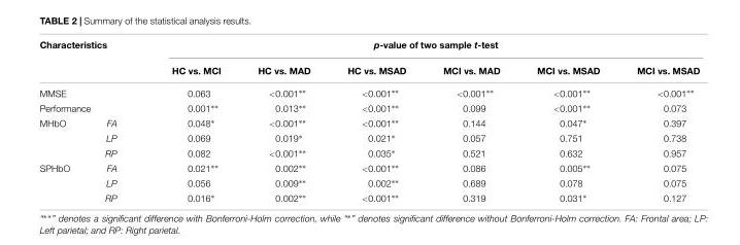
<table><thead><tr><td colspan="2">Characteristics</td><td colspan="6">p-value of two sample t-test</td></tr><tr><td></td><td></td><td>HC vs. MCI</td><td>HC vs. MAD</td><td>HC vs. MSAD</td><td>MCI vs. MAD</td><td>MCI vs. MSAD</td><td>MCI vs. MSAD</td></tr></thead><tbody><tr><td>MMSE</td><td></td><td>0.063</td><td>&lt;0.001∗∗</td><td>&lt;0.001∗∗</td><td>&lt;0.001∗∗</td><td>&lt;0.001∗∗</td><td>&lt;0.001∗∗</td></tr><tr><td>Performance</td><td></td><td>0.001∗∗</td><td>0.013∗∗</td><td>&lt;0.001∗∗</td><td>0.099</td><td>&lt;0.001∗∗</td><td>0.073</td></tr><tr><td rowspan="3">MHbO</td><td>FA</td><td>0.048∗</td><td>&lt;0.001∗∗</td><td>&lt;0.001∗∗</td><td>0.144</td><td>0.047∗</td><td>0.397</td></tr><tr><td>LP</td><td>0.069</td><td>0.019∗</td><td>0.021∗</td><td>0.057</td><td>0.751</td><td>0.738</td></tr><tr><td>RP</td><td>0.082</td><td>&lt;0.001∗∗</td><td>0.035∗</td><td>0.521</td><td>0.632</td><td>0.957</td></tr><tr><td rowspan="3">SPHbO</td><td>FA</td><td>0.021∗∗</td><td>0.002∗∗</td><td>&lt;0.001∗∗</td><td>0.086</td><td>0.005∗∗</td><td>0.075</td></tr><tr><td>LP</td><td>0.056</td><td>0.009∗∗</td><td>0.002∗∗</td><td>0.689</td><td>0.078</td><td>0.075</td></tr><tr><td>RP</td><td>0.016∗</td><td>0.002∗∗</td><td>&lt;0.001∗∗</td><td>0.319</td><td>0.031∗</td><td>0.127</td></tr></tbody></table>